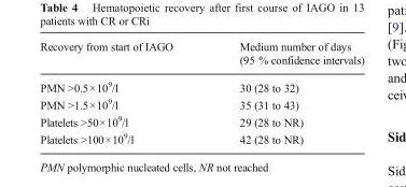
<table><thead><tr><td>Recovery from start of IAGO</td><td>Medium number of days (95 % confidence intervals)</td></tr></thead><tbody><tr><td>PMN &gt;0.5×10<sup>9</sup>/l</td><td>30 (28 to 32)</td></tr><tr><td>PMN &gt;1.5×10<sup>9</sup>/l</td><td>35 (31 to 43)</td></tr><tr><td>Platelets &gt;50×10<sup>9</sup>/l</td><td>29 (28 to NR)</td></tr><tr><td>Platelets &gt;100×10<sup>9</sup>/l</td><td>42 (28 to NR)</td></tr></tbody></table>